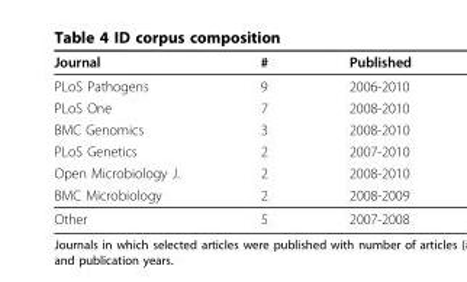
<table><thead><tr><td>Journal</td><td>#</td><td>Published</td></tr></thead><tbody><tr><td>PLoS Pathogens</td><td>9</td><td>2006-2010</td></tr><tr><td>PLoS One</td><td>7</td><td>2008-2010</td></tr><tr><td>BMC Genomics</td><td>3</td><td>2008-2010</td></tr><tr><td>PLoS Genetics</td><td>2</td><td>2007-2010</td></tr><tr><td>Open Microbiology J.</td><td>2</td><td>2008-2010</td></tr><tr><td>BMC Microbiology</td><td>2</td><td>2008-2009</td></tr><tr><td>Other</td><td>5</td><td>2007-2008</td></tr></tbody></table>